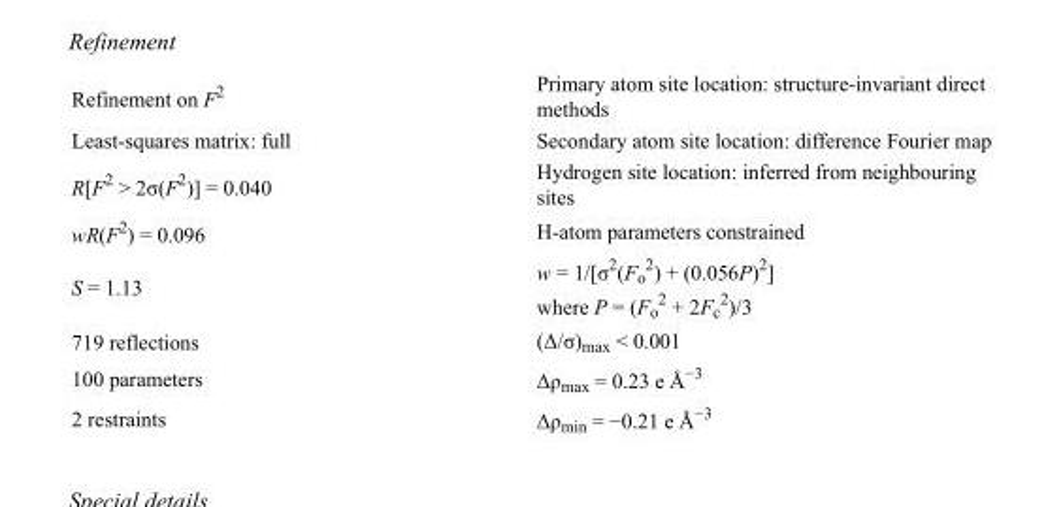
<table><tbody><tr><td>Refinement on F<sup>2</sup></td><td>Primary atom site location: structure-invariant direct methods</td></tr><tr><td>Least-squares matrix: full</td><td>Secondary atom site location: difference Fourier map</td></tr><tr><td>R[F<sup>2</sup> &gt; 2σ(F<sup>2</sup>)] = 0.040</td><td>Hydrogen site location: inferred from neighbouring sites</td></tr><tr><td>wR(F<sup>2</sup>) = 0.096</td><td>H-atom parameters constrained</td></tr><tr><td>S = 1.13</td><td>w = 1/[σ<sup>2</sup>(F<sub>o</sub> <sup>2</sup>) + (0.056P)<sup>2</sup>] where P = (F<sub>o</sub> <sup>2</sup> + 2F<sub>c</sub> <sup>2</sup>)/3</td></tr><tr><td>719 reflections</td><td>(Δ/σ)<sub>max</sub> &lt; 0.001</td></tr><tr><td>100 parameters</td><td>Δρ<sub>max</sub> = 0.23 e Å<sup>−3</sup></td></tr><tr><td>2 restraints</td><td>Δρ<sub>min</sub> = −0.21 e Å<sup>−3</sup></td></tr></tbody></table>